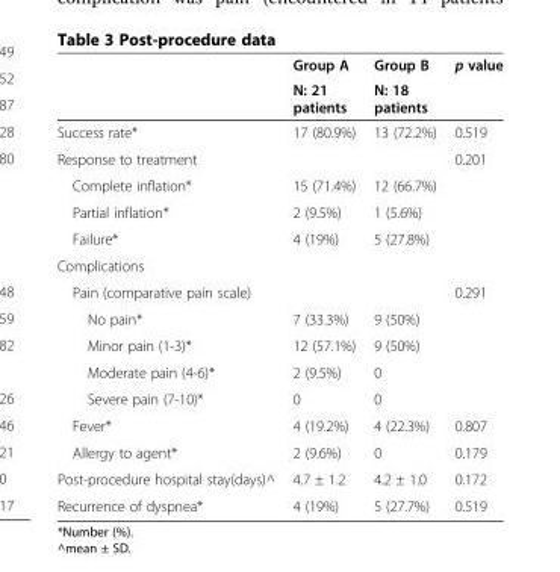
<table><thead><tr><td rowspan="2"></td><td rowspan="2">Group A N: 21 patients</td><td rowspan="2">Group B N: 18 patients</td><td rowspan="2">p value</td></tr><tr></tr></thead><tbody><tr><td>Success rate*</td><td>17 (80.9%)</td><td>13 (72.2%)</td><td>0.519</td></tr><tr><td>Response to treatment</td><td></td><td></td><td>0.201</td></tr><tr><td>Complete inflation*</td><td>15 (71.4%)</td><td>12 (66.7%)</td><td></td></tr><tr><td>Partial inflation*</td><td>2 (9.5%)</td><td>1 (5.6%)</td><td></td></tr><tr><td>Failure*</td><td>4 (19%)</td><td>5 (27.8%)</td><td></td></tr><tr><td colspan="4">Complications</td></tr><tr><td>Pain (comparative pain scale)</td><td></td><td></td><td>0.291</td></tr><tr><td>No pain*</td><td>7 (33.3%)</td><td>9 (50%)</td><td></td></tr><tr><td>Minor pain (1-3)*</td><td>12 (57.1%)</td><td>9 (50%)</td><td></td></tr><tr><td>Moderate pain (4-6)*</td><td>2 (9.5%)</td><td>0</td><td></td></tr><tr><td>Severe pain (7-10)*</td><td>0</td><td>0</td><td></td></tr><tr><td>Fever*</td><td>4 (19.2%)</td><td>4 (22.3%)</td><td>0.807</td></tr><tr><td>Allergy to agent*</td><td>2 (9.6%)</td><td>0</td><td>0.179</td></tr><tr><td>Post-procedure hospital stay(days)^</td><td>4.7 ± 1.2</td><td>4.2 ± 1.0</td><td>0.172</td></tr><tr><td>Recurrence of dyspnea*</td><td>4 (19%)</td><td>5 (27.7%)</td><td>0.519</td></tr></tbody></table>